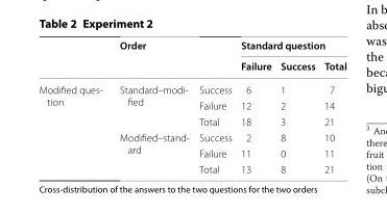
<table><thead><tr><td rowspan="2"></td><td rowspan="2">Order</td><td rowspan="2"></td><td colspan="3">Standard question</td></tr><tr><td>Failure</td><td>Success</td><td>Total</td></tr></thead><tbody><tr><td rowspan="6">Modified ques- tion</td><td rowspan="3">Standard–modi- fied</td><td>Success</td><td>6</td><td>1</td><td>7</td></tr><tr><td>Failure</td><td>12</td><td>2</td><td>14</td></tr><tr><td>Total</td><td>18</td><td>3</td><td>21</td></tr><tr><td rowspan="3">Modified–stand- ard</td><td>Success</td><td>2</td><td>8</td><td>10</td></tr><tr><td>Failure</td><td>11</td><td>0</td><td>11</td></tr><tr><td>Total</td><td>13</td><td>8</td><td>21</td></tr></tbody></table>